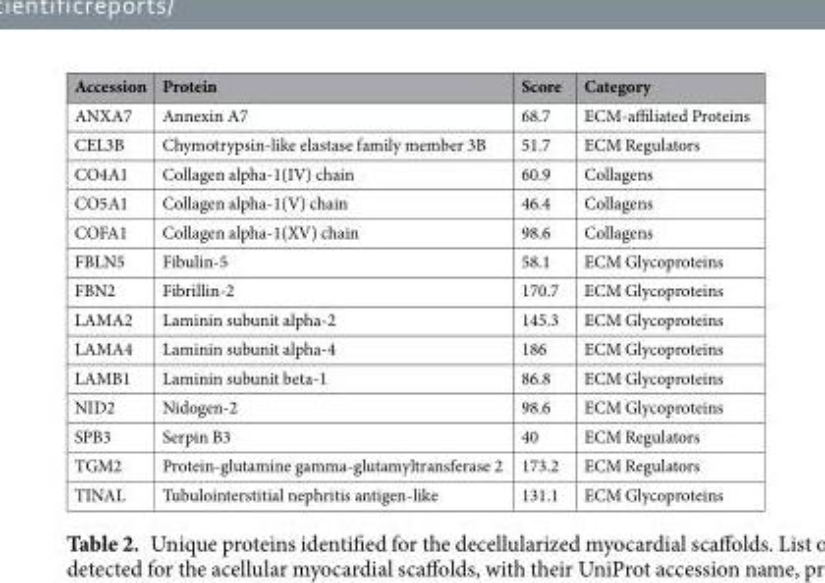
<table><thead><tr><td>Accession</td><td>Protein</td><td>Score</td><td>Category</td></tr></thead><tbody><tr><td>ANXA7</td><td>Annexin A7</td><td>68.7</td><td>ECM-affiliated Proteins</td></tr><tr><td>CEL3B</td><td>Chymotrypsin-like elastase family member 3B</td><td>51.7</td><td>ECM Regulators</td></tr><tr><td>CO4A1</td><td>Collagen alpha-1(IV) chain</td><td>60.9</td><td>Collagens</td></tr><tr><td>CO5A1</td><td>Collagen alpha-1(V) chain</td><td>46.4</td><td>Collagens</td></tr><tr><td>COFA1</td><td>Collagen alpha-1(XV) chain</td><td>98.6</td><td>Collagens</td></tr><tr><td>FBLN5</td><td>Fibulin-5</td><td>58.1</td><td>ECM Glycoproteins</td></tr><tr><td>FBN2</td><td>Fibrillin-2</td><td>170.7</td><td>ECM Glycoproteins</td></tr><tr><td>LAMA2</td><td>Laminin subunit alpha-2</td><td>145.3</td><td>ECM Glycoproteins</td></tr><tr><td>LAMA4</td><td>Laminin subunit alpha-4</td><td>186</td><td>ECM Glycoproteins</td></tr><tr><td>LAMB1</td><td>Laminin subunit beta-1</td><td>86.8</td><td>ECM Glycoproteins</td></tr><tr><td>NID2</td><td>Nidogen-2</td><td>98.6</td><td>ECM Glycoproteins</td></tr><tr><td>SPB3</td><td>Serpin B3</td><td>40</td><td>ECM Regulators</td></tr><tr><td>TGM2</td><td>Protein-glutamine gamma-glutamyltransferase 2</td><td>173.2</td><td>ECM Regulators</td></tr><tr><td>TINAL</td><td>Tubulointerstitial nephritis antigen-like</td><td>131.1</td><td>ECM Glycoproteins</td></tr></tbody></table>